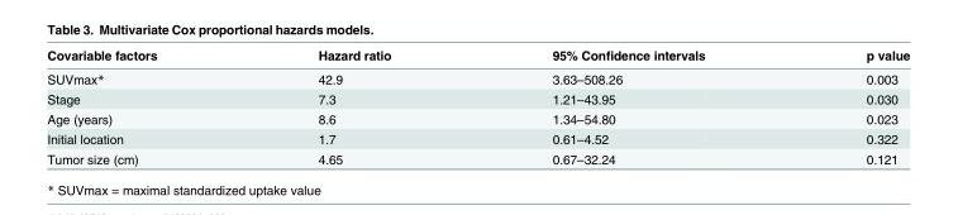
<table><thead><tr><td>Covariable factors</td><td>Hazard ratio</td><td>95% Confidence intervals</td><td>p value</td></tr></thead><tbody><tr><td>SUVmax*</td><td>42.9</td><td>3.63–508.26</td><td>0.003</td></tr><tr><td>Stage</td><td>7.3</td><td>1.21–43.95</td><td>0.030</td></tr><tr><td>Age (years)</td><td>8.6</td><td>1.34–54.80</td><td>0.023</td></tr><tr><td>Initial location</td><td>1.7</td><td>0.61–4.52</td><td>0.322</td></tr><tr><td>Tumor size (cm)</td><td>4.65</td><td>0.67–32.24</td><td>0.121</td></tr></tbody></table>